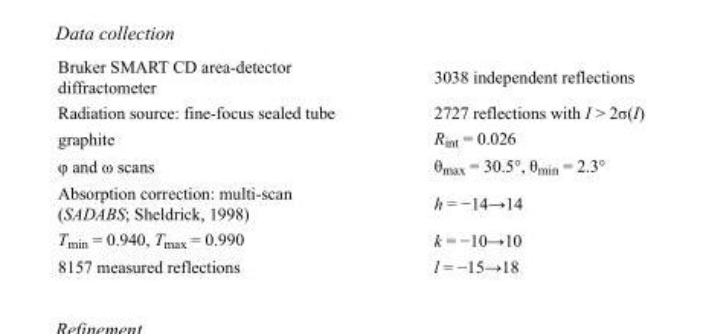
<table><tbody><tr><td>Bruker SMART CD area-detector diffractometer</td><td>3038 independent reflections</td></tr><tr><td>Radiation source: fine-focus sealed tube</td><td>2727 reflections with I &gt; 2σ(I)</td></tr><tr><td>graphite</td><td>R<sub>int</sub> = 0.026</td></tr><tr><td>φ and ω scans</td><td>θ<sub>max</sub> = 30.5°, θ<sub>min</sub> = 2.3°</td></tr><tr><td>Absorption correction: multi-scan (SADABS; Sheldrick, 1998)</td><td>h = −14→14</td></tr><tr><td>T<sub>min</sub> = 0.940, T<sub>max</sub> = 0.990</td><td>k = −10→10</td></tr><tr><td>8157 measured reflections</td><td>l = −15→18</td></tr></tbody></table>